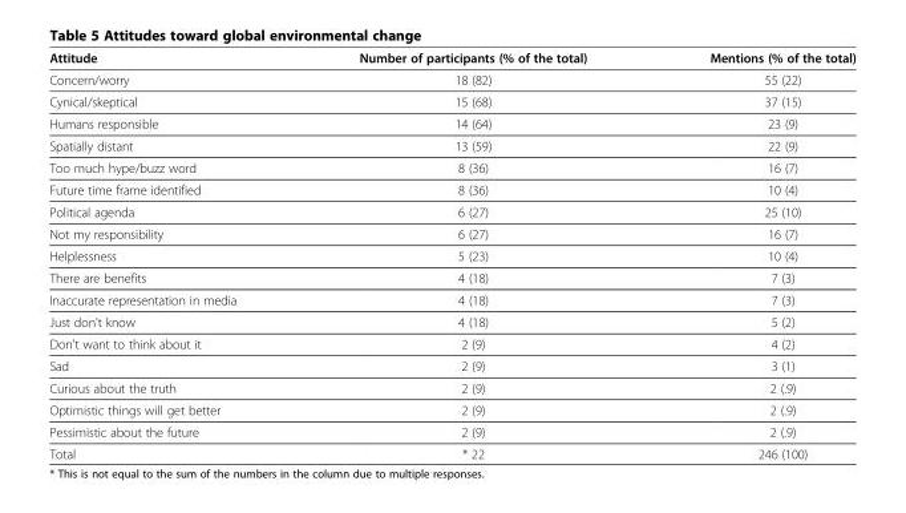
<table><thead><tr><td>Attitude</td><td>Number of participants (% of the total)</td><td>Mentions (% of the total)</td></tr></thead><tbody><tr><td>Concern/worry</td><td>18 (82)</td><td>55 (22)</td></tr><tr><td>Cynical/skeptical</td><td>15 (68)</td><td>37 (15)</td></tr><tr><td>Humans responsible</td><td>14 (64)</td><td>23 (9)</td></tr><tr><td>Spatially distant</td><td>13 (59)</td><td>22 (9)</td></tr><tr><td>Too much hype/buzz word</td><td>8 (36)</td><td>16 (7)</td></tr><tr><td>Future time frame identified</td><td>8 (36)</td><td>10 (4)</td></tr><tr><td>Political agenda</td><td>6 (27)</td><td>25 (10)</td></tr><tr><td>Not my responsibility</td><td>6 (27)</td><td>16 (7)</td></tr><tr><td>Helplessness</td><td>5 (23)</td><td>10 (4)</td></tr><tr><td>There are benefits</td><td>4 (18)</td><td>7 (3)</td></tr><tr><td>Inaccurate representation in media</td><td>4 (18)</td><td>7 (3)</td></tr><tr><td>Just don&#x27;t know</td><td>4 (18)</td><td>5 (2)</td></tr><tr><td>Don&#x27;t want to think about it</td><td>2 (9)</td><td>4 (2)</td></tr><tr><td>Sad</td><td>2 (9)</td><td>3 (1)</td></tr><tr><td>Curious about the truth</td><td>2 (9)</td><td>2 (.9)</td></tr><tr><td>Optimistic things will get better</td><td>2 (9)</td><td>2 (.9)</td></tr><tr><td>Pessimistic about the future</td><td>2 (9)</td><td>2 (.9)</td></tr><tr><td>Total</td><td>* 22</td><td>246 (100)</td></tr></tbody></table>